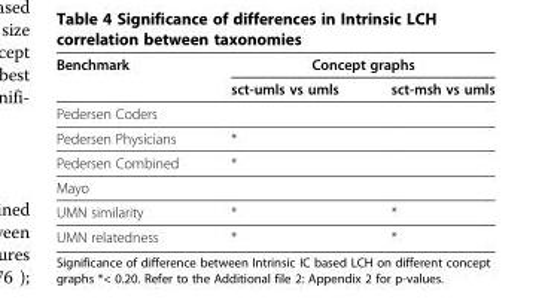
<table><thead><tr><td rowspan="2">Benchmark</td><td colspan="2">Concept graphs</td></tr><tr><td>sct-umls vs umls</td><td>sct-msh vs umls</td></tr></thead><tbody><tr><td colspan="3">Pedersen Coders</td></tr><tr><td>Pedersen Physicians</td><td>*</td><td></td></tr><tr><td>Pedersen Combined</td><td>*</td><td></td></tr><tr><td colspan="3">Mayo</td></tr><tr><td>UMN similarity</td><td>*</td><td>*</td></tr><tr><td>UMN relatedness</td><td>*</td><td>*</td></tr></tbody></table>